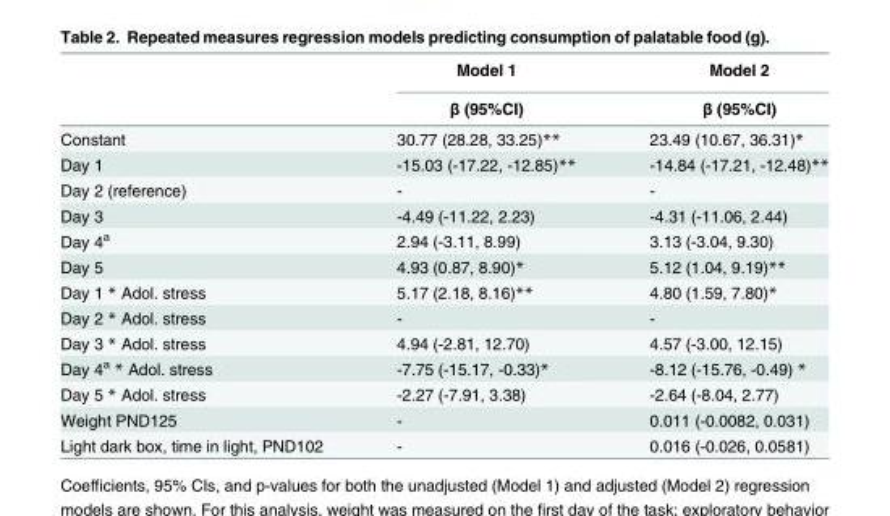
<table><thead><tr><td rowspan="2"></td><td rowspan="2">Model 1 β (95%CI)</td><td rowspan="2">Model 2 β (95%CI)</td></tr><tr></tr></thead><tbody><tr><td>Constant</td><td>30.77 (28.28, 33.25)**</td><td>23.49 (10.67, 36.31)*</td></tr><tr><td>Day 1</td><td>-15.03 (-17.22, -12.85)**</td><td>-14.84 (-17.21, -12.48)**</td></tr><tr><td>Day 2 (reference)</td><td>-</td><td>-</td></tr><tr><td>Day 3</td><td>-4.49 (-11.22, 2.23)</td><td>-4.31 (-11.06, 2.44)</td></tr><tr><td>Day 4<sup>a</sup></td><td>2.94 (-3.11, 8.99)</td><td>3.13 (-3.04, 9.30)</td></tr><tr><td>Day 5</td><td>4.93 (0.87, 8.90)*</td><td>5.12 (1.04, 9.19)**</td></tr><tr><td>Day 1 * Adol. stress</td><td>5.17 (2.18, 8.16)**</td><td>4.80 (1.59, 7.80)*</td></tr><tr><td>Day 2 * Adol. stress</td><td>-</td><td>-</td></tr><tr><td>Day 3 * Adol. stress</td><td>4.94 (-2.81, 12.70)</td><td>4.57 (-3.00, 12.15)</td></tr><tr><td>Day 4<sup>a</sup> * Adol. stress</td><td>-7.75 (-15.17, -0.33)*</td><td>-8.12 (-15.76, -0.49) *</td></tr><tr><td>Day 5 * Adol. stress</td><td>-2.27 (-7.91, 3.38)</td><td>-2.64 (-8.04, 2.77)</td></tr><tr><td>Weight PND125</td><td>-</td><td>0.011 (-0.0082, 0.031)</td></tr><tr><td>Light dark box, time in light, PND102</td><td>-</td><td>0.016 (-0.026, 0.0581)</td></tr></tbody></table>